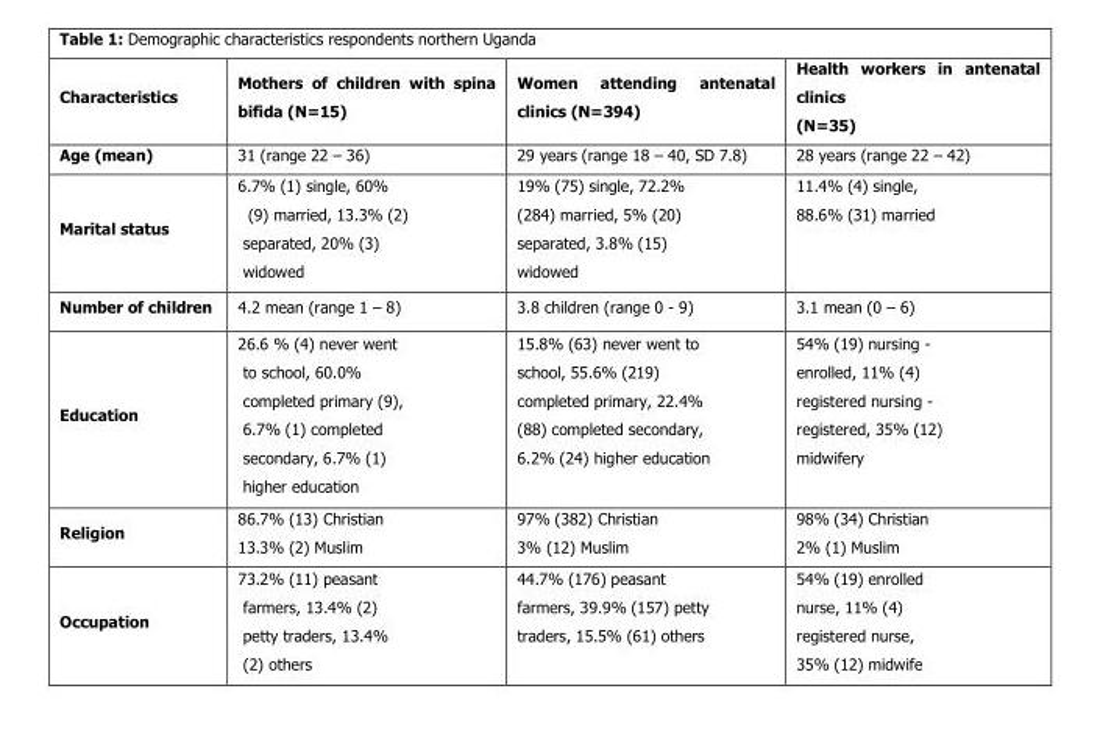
<table><thead><tr><td>Characteristics</td><td>Mothers of children with spina bifida (N=15)</td><td>Women attending antenatal clinics (N=394)</td><td>Health workers in antenatal clinics (N=35)</td></tr></thead><tbody><tr><td>Age (mean)</td><td>31 (range 22 – 36)</td><td>29 years (range 18 – 40, SD 7.8)</td><td>28 years (range 22 – 42)</td></tr><tr><td>Marital status</td><td>6.7% (1) single, 60% (9) married, 13.3% (2) separated, 20% (3) widowed</td><td>19% (75) single, 72.2% (284) married, 5% (20) separated, 3.8% (15) widowed</td><td>11.4% (4) single, 88.6% (31) married</td></tr><tr><td>Number of children</td><td>4.2 mean (range 1 – 8)</td><td>3.8 children (range 0 - 9)</td><td>3.1 mean (0 – 6)</td></tr><tr><td>Education</td><td>26.6 % (4) never went to school, 60.0% completed primary (9), 6.7% (1) completed secondary, 6.7% (1) higher education</td><td>15.8% (63) never went to school, 55.6% (219) completed primary, 22.4% (88) completed secondary, 6.2% (24) higher education</td><td>54% (19) nursing - enrolled, 11% (4) registered nursing - registered, 35% (12) midwifery</td></tr><tr><td>Religion</td><td>86.7% (13) Christian 13.3% (2) Muslim</td><td>97% (382) Christian 3% (12) Muslim</td><td>98% (34) Christian 2% (1) Muslim</td></tr><tr><td>Occupation</td><td>73.2% (11) peasant farmers, 13.4% (2) petty traders, 13.4% (2) others</td><td>44.7% (176) peasant farmers, 39.9% (157) petty traders, 15.5% (61) others</td><td>54% (19) enrolled nurse, 11% (4) registered nurse, 35% (12) midwife</td></tr></tbody></table>